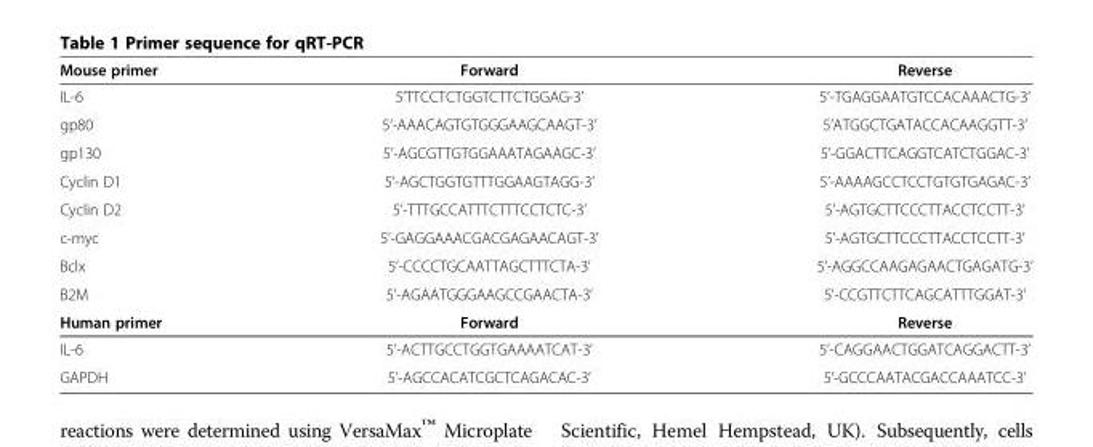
<table><thead><tr><td>Mouse primer</td><td>Forward</td><td>Reverse</td></tr></thead><tbody><tr><td>IL-6</td><td>5’TTCCTCTGGTCTTCTGGAG-3’</td><td>5’-TGAGGAATGTCCACAAACTG-3’</td></tr><tr><td>gp80</td><td>5‘-AAACAGTGTGGGAAGCAAGT-3’</td><td>5’ATGGCTGATACCACAAGGTT-3’</td></tr><tr><td>gp130</td><td>5’-AGCGTTGTGGAAATAGAAGC-3’</td><td>5’-GGACTTCAGGTCATCTGGAC-3’</td></tr><tr><td>Cyclin D1</td><td>5’-AGCTGGTGTTTGGAAGTAGG-3’</td><td>5’-AAAAGCCTCCTGTGTGAGAC-3’</td></tr><tr><td>Cyclin D2</td><td>5’-TTTGCCATTTCTTTCCTCTC-3’</td><td>5’-AGTGCTTCCCTTACCTCCTT-3’</td></tr><tr><td>c-myc</td><td>5’-GAGGAAACGACGAGAACAGT-3’</td><td>5’-AGTGCTTCCCTTACCTCCTT-3’</td></tr><tr><td>Bclx</td><td>5’-CCCCTGCAATTAGCTTTCTA-3’</td><td>5’-AGGCCAAGAGAACTGAGATG-3’</td></tr><tr><td>B2M</td><td>5’-AGAATGGGAAGCCGAACTA-3’</td><td>5’-CCGTTCTTCAGCATTTGGAT-3’</td></tr><tr><td>Human primer</td><td>Forward</td><td>Reverse</td></tr><tr><td>IL-6</td><td>5’-ACTTGCCTGGTGAAAATCAT-3’</td><td>5’-CAGGAACTGGATCAGGACTT-3’</td></tr><tr><td>GAPDH</td><td>5’-AGCCACATCGCTCAGACAC-3’</td><td>5’-GCCCAATACGACCAAATCC-3’</td></tr></tbody></table>